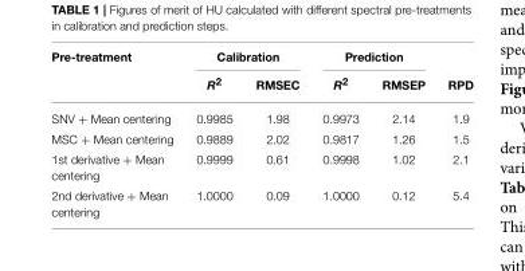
<table><thead><tr><td rowspan="2">Pre-treatment</td><td colspan="2">Calibration</td><td colspan="2">Prediction</td><td rowspan="2">RPD</td></tr><tr><td>R<sup>2</sup></td><td>RMSEC</td><td>R<sup>2</sup></td><td>RMSEP</td></tr></thead><tbody><tr><td>SNV + Mean centering</td><td>0.9985</td><td>1.98</td><td>0.9973</td><td>2.14</td><td>1.9</td></tr><tr><td>MSC + Mean centering</td><td>0.9889</td><td>2.02</td><td>0.9817</td><td>1.26</td><td>1.5</td></tr><tr><td>1st derivative + Mean centering</td><td>0.9999</td><td>0.61</td><td>0.9998</td><td>1.02</td><td>2.1</td></tr><tr><td>2nd derivative + Mean centering</td><td>1.0000</td><td>0.09</td><td>1.0000</td><td>0.12</td><td>5.4</td></tr></tbody></table>